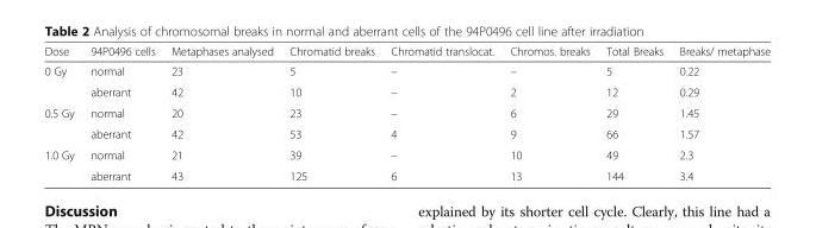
<table><thead><tr><td>Dose</td><td>94P0496 cells</td><td>Metaphases analysed</td><td>Chromatid breaks</td><td>Chromatid translocat.</td><td>Chromos. breaks</td><td>Total Breaks</td><td>Breaks/ metaphase</td></tr></thead><tbody><tr><td rowspan="2">0 Gy</td><td>normal</td><td>23</td><td>5</td><td>–</td><td>–</td><td>5</td><td>0.22</td></tr><tr><td>aberrant</td><td>42</td><td>10</td><td>–</td><td>2</td><td>12</td><td>0.29</td></tr><tr><td rowspan="2">0.5 Gy</td><td>normal</td><td>20</td><td>23</td><td>–</td><td>6</td><td>29</td><td>1.45</td></tr><tr><td>aberrant</td><td>42</td><td>53</td><td>4</td><td>9</td><td>66</td><td>1.57</td></tr><tr><td rowspan="2">1.0 Gy</td><td>normal</td><td>21</td><td>39</td><td>–</td><td>10</td><td>49</td><td>2.3</td></tr><tr><td>aberrant</td><td>43</td><td>125</td><td>6</td><td>13</td><td>144</td><td>3.4</td></tr></tbody></table>